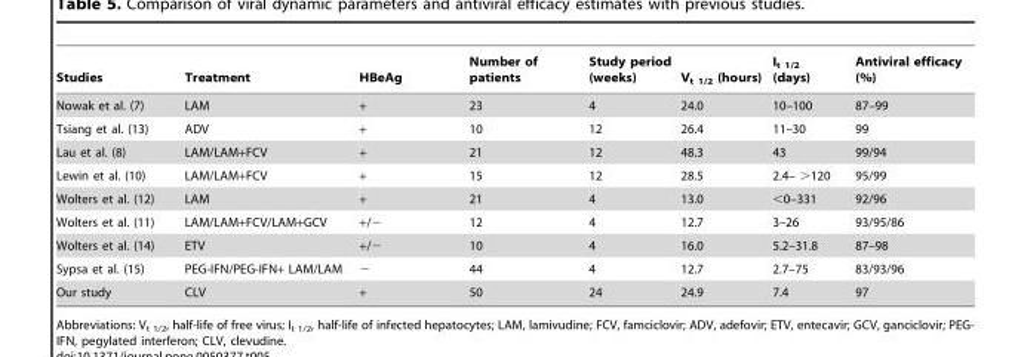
<table><thead><tr><td>Studies</td><td>Treatment</td><td>HBeAg</td><td>Number of patients</td><td>Study period (weeks)</td><td>V<sub>t 1/2</sub> (hours)</td><td>I<sub>t 1/2</sub> (days)</td><td>Antiviral efficacy (%)</td></tr></thead><tbody><tr><td>Nowak et al. (7)</td><td>LAM</td><td>+</td><td>23</td><td>4</td><td>24.0</td><td>10–100</td><td>87–99</td></tr><tr><td>Tsiang et al. (13)</td><td>ADV</td><td>+</td><td>10</td><td>12</td><td>26.4</td><td>11–30</td><td>99</td></tr><tr><td>Lau et al. (8)</td><td>LAM/LAM+FCV</td><td>+</td><td>21</td><td>12</td><td>48.3</td><td>43</td><td>99/94</td></tr><tr><td>Lewin et al. (10)</td><td>LAM/LAM+FCV</td><td>+</td><td>15</td><td>12</td><td>28.5</td><td>2.4– &gt;120</td><td>95/99</td></tr><tr><td>Wolters et al. (12)</td><td>LAM</td><td>+</td><td>21</td><td>4</td><td>13.0</td><td>&lt;0–331</td><td>92/96</td></tr><tr><td>Wolters et al. (11)</td><td>LAM/LAM+FCV/LAM+GCV</td><td>+/−</td><td>12</td><td>4</td><td>12.7</td><td>3–26</td><td>93/95/86</td></tr><tr><td>Wolters et al. (14)</td><td>ETV</td><td>+/−</td><td>10</td><td>4</td><td>16.0</td><td>5.2–31.8</td><td>87–98</td></tr><tr><td>Sypsa et al. (15)</td><td>PEG-IFN/PEG-IFN+ LAM/LAM</td><td>−</td><td>44</td><td>4</td><td>12.7</td><td>2.7–75</td><td>83/93/96</td></tr><tr><td>Our study</td><td>CLV</td><td>+</td><td>50</td><td>24</td><td>24.9</td><td>7.4</td><td>97</td></tr></tbody></table>